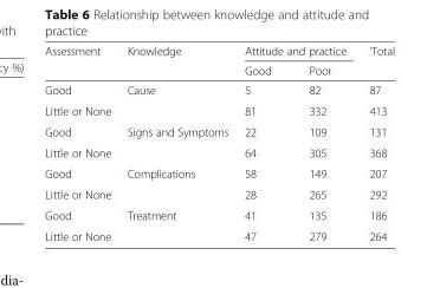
<table><thead><tr><td rowspan="2">Assessment</td><td rowspan="2">Knowledge</td><td colspan="2">Attitude and practice</td><td rowspan="2">‘Total</td></tr><tr><td>Good</td><td>Poor</td></tr></thead><tbody><tr><td>Good</td><td rowspan="2">Cause</td><td>5</td><td>82</td><td>87</td></tr><tr><td>Little or None</td><td>81</td><td>332</td><td>413</td></tr><tr><td>Good</td><td rowspan="2">Signs and Symptoms</td><td>22</td><td>109</td><td>131</td></tr><tr><td>Little or None</td><td>64</td><td>305</td><td>368</td></tr><tr><td>Good</td><td rowspan="2">Complications</td><td>58</td><td>149</td><td>207</td></tr><tr><td>Little or None</td><td>28</td><td>265</td><td>292</td></tr><tr><td>Good</td><td rowspan="2">Treatment</td><td>41</td><td>135</td><td>186</td></tr><tr><td>Little or None</td><td>47</td><td>279</td><td>264</td></tr></tbody></table>